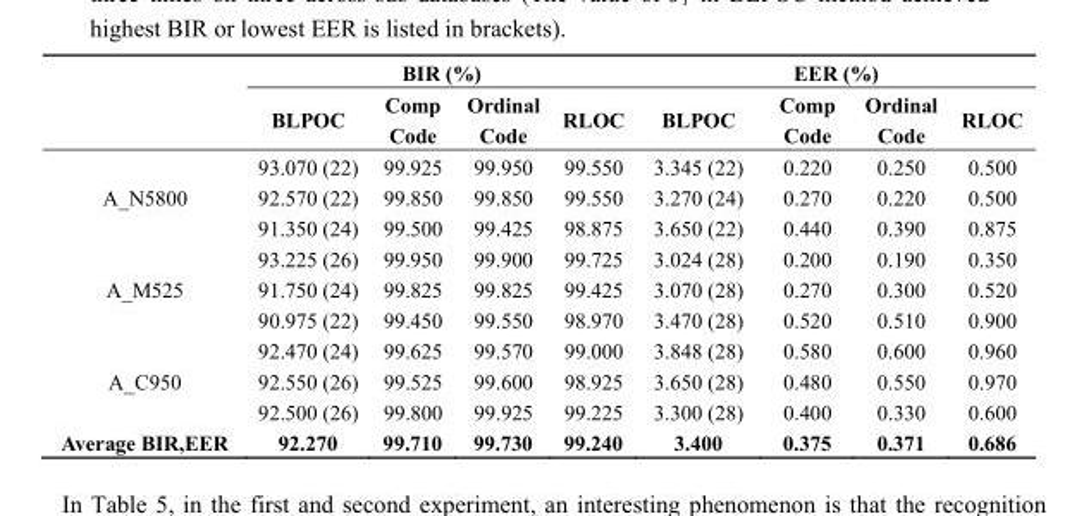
<table><thead><tr><td rowspan="2"></td><td colspan="4">BIR (%)</td><td colspan="4">EER (%)</td></tr><tr><td>BLPOC</td><td>Comp Code</td><td>Ordinal Code</td><td>RLOC</td><td>BLPOC</td><td>Comp Code</td><td>Ordinal Code</td><td>RLOC</td></tr></thead><tbody><tr><td rowspan="3">A_N5800</td><td>93.070 (22)</td><td>99.925</td><td>99.950</td><td>99.550</td><td>3.345 (22)</td><td>0.220</td><td>0.250</td><td>0.500</td></tr><tr><td>92.570 (22)</td><td>99.850</td><td>99.850</td><td>99.550</td><td>3.270 (24)</td><td>0.270</td><td>0.220</td><td>0.500</td></tr><tr><td>91.350 (24)</td><td>99.500</td><td>99.425</td><td>98.875</td><td>3.650 (22)</td><td>0.440</td><td>0.390</td><td>0.875</td></tr><tr><td rowspan="3">A_M525</td><td>93.225 (26)</td><td>99.950</td><td>99.900</td><td>99.725</td><td>3.024 (28)</td><td>0.200</td><td>0.190</td><td>0.350</td></tr><tr><td>91.750 (24)</td><td>99.825</td><td>99.825</td><td>99.425</td><td>3.070 (28)</td><td>0.270</td><td>0.300</td><td>0.520</td></tr><tr><td>90.975 (22)</td><td>99.450</td><td>99.550</td><td>98.970</td><td>3.470 (28)</td><td>0.520</td><td>0.510</td><td>0.900</td></tr><tr><td rowspan="3">A_C950</td><td>92.470 (24)</td><td>99.625</td><td>99.570</td><td>99.000</td><td>3.848 (28)</td><td>0.580</td><td>0.600</td><td>0.960</td></tr><tr><td>92.550 (26)</td><td>99.525</td><td>99.600</td><td>98.925</td><td>3.650 (28)</td><td>0.480</td><td>0.550</td><td>0.970</td></tr><tr><td>92.500 (26)</td><td>99.800</td><td>99.925</td><td>99.225</td><td>3.300 (28)</td><td>0.400</td><td>0.330</td><td>0.600</td></tr><tr><td>Average BIR,EER</td><td>92.270</td><td>99.710</td><td>99.730</td><td>99.240</td><td>3.400</td><td>0.375</td><td>0.371</td><td>0.686</td></tr></tbody></table>